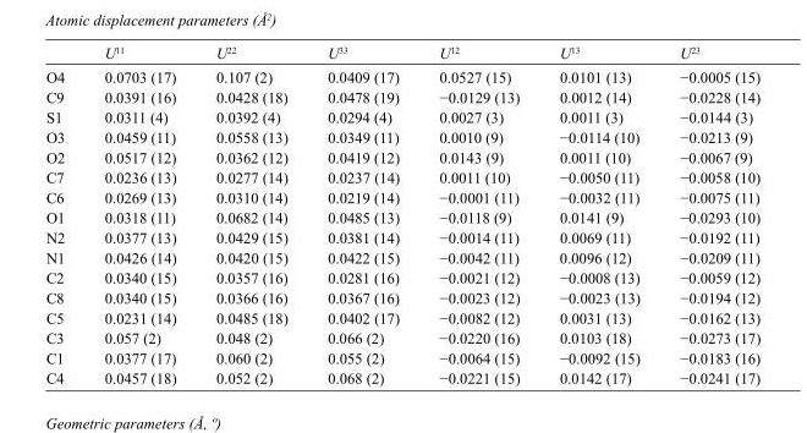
<table><thead><tr><td></td><td>U<sup>11</sup></td><td>U<sup>22</sup></td><td>U<sup>33</sup></td><td>U<sup>12</sup></td><td>U<sup>13</sup></td><td>U<sup>23</sup></td></tr></thead><tbody><tr><td>O4</td><td>0.0703 (17)</td><td>0.107 (2)</td><td>0.0409 (17)</td><td>0.0527 (15)</td><td>0.0101 (13)</td><td>−0.0005 (15)</td></tr><tr><td>C9</td><td>0.0391 (16)</td><td>0.0428 (18)</td><td>0.0478 (19)</td><td>−0.0129 (13)</td><td>0.0012 (14)</td><td>−0.0228 (14)</td></tr><tr><td>S1</td><td>0.0311 (4)</td><td>0.0392 (4)</td><td>0.0294 (4)</td><td>0.0027 (3)</td><td>0.0011 (3)</td><td>−0.0144 (3)</td></tr><tr><td>O3</td><td>0.0459 (11)</td><td>0.0558 (13)</td><td>0.0349 (11)</td><td>0.0010 (9)</td><td>−0.0114 (10)</td><td>−0.0213 (9)</td></tr><tr><td>O2</td><td>0.0517 (12)</td><td>0.0362 (12)</td><td>0.0419 (12)</td><td>0.0143 (9)</td><td>0.0011 (10)</td><td>−0.0067 (9)</td></tr><tr><td>C7</td><td>0.0236 (13)</td><td>0.0277 (14)</td><td>0.0237 (14)</td><td>0.0011 (10)</td><td>−0.0050 (11)</td><td>−0.0058 (10)</td></tr><tr><td>C6</td><td>0.0269 (13)</td><td>0.0310 (14)</td><td>0.0219 (14)</td><td>−0.0001 (11)</td><td>−0.0032 (11)</td><td>−0.0075 (11)</td></tr><tr><td>O1</td><td>0.0318 (11)</td><td>0.0682 (14)</td><td>0.0485 (13)</td><td>−0.0118 (9)</td><td>0.0141 (9)</td><td>−0.0293 (10)</td></tr><tr><td>N2</td><td>0.0377 (13)</td><td>0.0429 (15)</td><td>0.0381 (14)</td><td>−0.0014 (11)</td><td>0.0069 (11)</td><td>−0.0192 (11)</td></tr><tr><td>N1</td><td>0.0426 (14)</td><td>0.0420 (15)</td><td>0.0422 (15)</td><td>−0.0042 (11)</td><td>0.0096 (12)</td><td>−0.0209 (11)</td></tr><tr><td>C2</td><td>0.0340 (15)</td><td>0.0357 (16)</td><td>0.0281 (16)</td><td>−0.0021 (12)</td><td>−0.0008 (13)</td><td>−0.0059 (12)</td></tr><tr><td>C8</td><td>0.0340 (15)</td><td>0.0366 (16)</td><td>0.0367 (16)</td><td>−0.0023 (12)</td><td>−0.0023 (13)</td><td>−0.0194 (12)</td></tr><tr><td>C5</td><td>0.0231 (14)</td><td>0.0485 (18)</td><td>0.0402 (17)</td><td>−0.0082 (12)</td><td>0.0031 (13)</td><td>−0.0162 (13)</td></tr><tr><td>C3</td><td>0.057 (2)</td><td>0.048 (2)</td><td>0.066 (2)</td><td>−0.0220 (16)</td><td>0.0103 (18)</td><td>−0.0273 (17)</td></tr><tr><td>C1</td><td>0.0377 (17)</td><td>0.060 (2)</td><td>0.055 (2)</td><td>−0.0064 (15)</td><td>−0.0092 (15)</td><td>−0.0183 (16)</td></tr><tr><td>C4</td><td>0.0457 (18)</td><td>0.052 (2)</td><td>0.068 (2)</td><td>−0.0221 (15)</td><td>0.0142 (17)</td><td>−0.0241 (17)</td></tr></tbody></table>